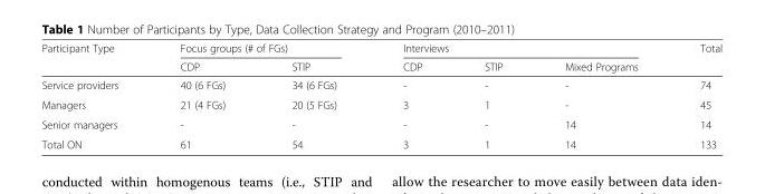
<table><thead><tr><td rowspan="2">Participant Type</td><td colspan="2">Focus groups (# of FGs)</td><td colspan="3">Interviews</td><td rowspan="2">Total</td></tr><tr><td>CDP</td><td>STIP</td><td>CDP</td><td>STIP</td><td>Mixed Programs</td></tr></thead><tbody><tr><td>Service providers</td><td>40 (6 FGs)</td><td>34 (6 FGs)</td><td>-</td><td>-</td><td>-</td><td>74</td></tr><tr><td>Managers</td><td>21 (4 FGs)</td><td>20 (5 FGs)</td><td>3</td><td>1</td><td>-</td><td>45</td></tr><tr><td>Senior managers</td><td>-</td><td>-</td><td>-</td><td>-</td><td>14</td><td>14</td></tr><tr><td>Total ON</td><td>61</td><td>54</td><td>3</td><td>1</td><td>14</td><td>133</td></tr></tbody></table>